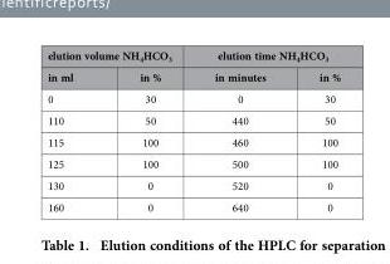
<table><thead><tr><td colspan="2">elution volume NH<sub>4</sub>HCO<sub>3</sub></td><td colspan="2">elution time NH<sub>4</sub>HCO<sub>3</sub></td></tr><tr><td>in ml</td><td>in %</td><td>in minutes</td><td>in %</td></tr></thead><tbody><tr><td>0</td><td>30</td><td>0</td><td>30</td></tr><tr><td>110</td><td>50</td><td>440</td><td>50</td></tr><tr><td>115</td><td>100</td><td>460</td><td>100</td></tr><tr><td>125</td><td>100</td><td>500</td><td>100</td></tr><tr><td>130</td><td>0</td><td>520</td><td>0</td></tr><tr><td>160</td><td>0</td><td>640</td><td>0</td></tr></tbody></table>